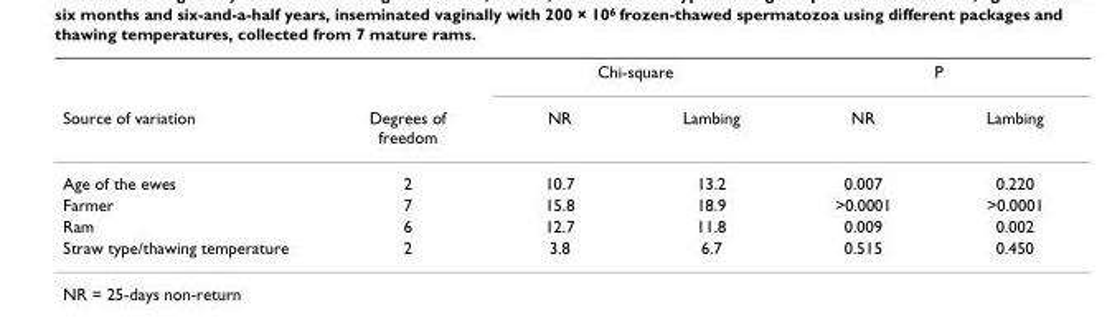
<table><thead><tr><td rowspan="2">Source of variation</td><td rowspan="2">Degrees of freedom</td><td colspan="2">Chi-square</td><td colspan="2">P</td></tr><tr><td>NR</td><td>Lambing</td><td>NR</td><td>Lambing</td></tr></thead><tbody><tr><td>Age of the ewes</td><td>2</td><td>10.7</td><td>13.2</td><td>0.007</td><td>0.220</td></tr><tr><td>Farmer</td><td>7</td><td>15.8</td><td>18.9</td><td>&gt;0.0001</td><td>&gt;0.0001</td></tr><tr><td>Ram</td><td>6</td><td>12.7</td><td>11.8</td><td>0.009</td><td>0.002</td></tr><tr><td>Straw type/thawing temperature</td><td>2</td><td>3.8</td><td>6.7</td><td>0.515</td><td>0.450</td></tr></tbody></table>